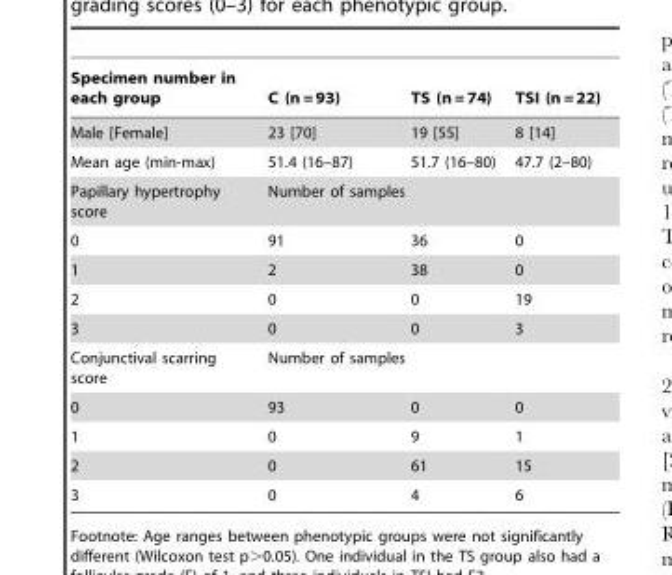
<table><thead><tr><td>Specimen number in each group</td><td>C (n = 93)</td><td>TS (n = 74)</td><td>TSI (n = 22)</td></tr></thead><tbody><tr><td>Male [Female]</td><td>23 [70]</td><td>19 [55]</td><td>8 [14]</td></tr><tr><td>Mean age (min-max)</td><td>51.4 (16–87)</td><td>51.7 (16–80)</td><td>47.7 (2–80)</td></tr><tr><td>Papillary hypertrophy score</td><td colspan="3">Number of samples</td></tr><tr><td>0</td><td>91</td><td>36</td><td>0</td></tr><tr><td>1</td><td>2</td><td>38</td><td>0</td></tr><tr><td>2</td><td>0</td><td>0</td><td>19</td></tr><tr><td>3</td><td>0</td><td>0</td><td>3</td></tr><tr><td>Conjunctival scarring score</td><td colspan="3">Number of samples</td></tr><tr><td>0</td><td>93</td><td>0</td><td>0</td></tr><tr><td>1</td><td>0</td><td>9</td><td>1</td></tr><tr><td>2</td><td>0</td><td>61</td><td>15</td></tr><tr><td>3</td><td>0</td><td>4</td><td>6</td></tr></tbody></table>